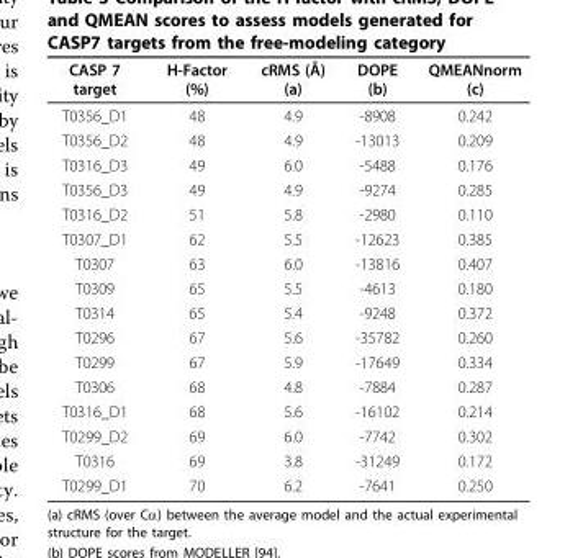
<table><thead><tr><td>CASP 7 target</td><td>H-Factor (%)</td><td>cRMS (Å) (a)</td><td>DOPE (b)</td><td>QMEANnorm (c)</td></tr></thead><tbody><tr><td>T0356_D1</td><td>48</td><td>4.9</td><td>-8908</td><td>0.242</td></tr><tr><td>T0356_D2</td><td>48</td><td>4.9</td><td>-13013</td><td>0.209</td></tr><tr><td>T0316_D3</td><td>49</td><td>6.0</td><td>-5488</td><td>0.176</td></tr><tr><td>T0356_D3</td><td>49</td><td>4.9</td><td>-9274</td><td>0.285</td></tr><tr><td>T0316_D2</td><td>51</td><td>5.8</td><td>-2980</td><td>0.110</td></tr><tr><td>T0307_D1</td><td>62</td><td>5.5</td><td>-12623</td><td>0.385</td></tr><tr><td>T0307</td><td>63</td><td>6.0</td><td>-13816</td><td>0.407</td></tr><tr><td>T0309</td><td>65</td><td>5.5</td><td>-4613</td><td>0.180</td></tr><tr><td>T0314</td><td>65</td><td>5.4</td><td>-9248</td><td>0.372</td></tr><tr><td>T0296</td><td>67</td><td>5.6</td><td>-35782</td><td>0.260</td></tr><tr><td>T0299</td><td>67</td><td>5.9</td><td>-17649</td><td>0.334</td></tr><tr><td>T0306</td><td>68</td><td>4.8</td><td>-7884</td><td>0.287</td></tr><tr><td>T0316_D1</td><td>68</td><td>5.6</td><td>-16102</td><td>0.214</td></tr><tr><td>T0299_D2</td><td>69</td><td>6.0</td><td>-7742</td><td>0.302</td></tr><tr><td>T0316</td><td>69</td><td>3.8</td><td>-31249</td><td>0.172</td></tr><tr><td>T0299_D1</td><td>70</td><td>6.2</td><td>-7641</td><td>0.250</td></tr></tbody></table>